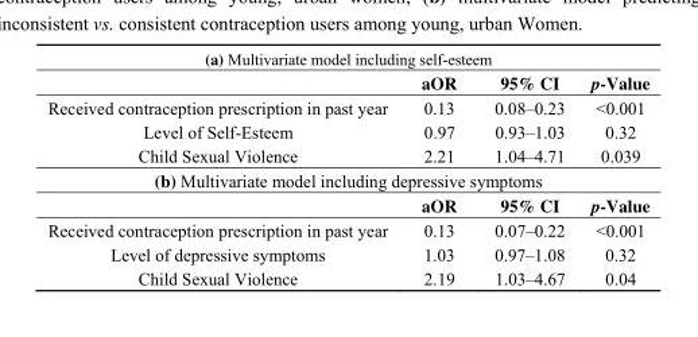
<table><tbody><tr><td colspan="4">(a) Multivariate model including self-esteem</td></tr><tr><td></td><td>aOR</td><td>95% CI</td><td>p-Value</td></tr><tr><td>Received contraception prescription in past year</td><td>0.13</td><td>0.08–0.23</td><td>&lt;0.001</td></tr><tr><td>Level of Self-Esteem</td><td>0.97</td><td>0.93–1.03</td><td>0.32</td></tr><tr><td>Child Sexual Violence</td><td>2.21</td><td>1.04–4.71</td><td>0.039</td></tr><tr><td colspan="4">(b) Multivariate model including depressive symptoms</td></tr><tr><td></td><td>aOR</td><td>95% CI</td><td>p-Value</td></tr><tr><td>Received contraception prescription in past year</td><td>0.13</td><td>0.07–0.22</td><td>&lt;0.001</td></tr><tr><td>Level of depressive symptoms</td><td>1.03</td><td>0.97–1.08</td><td>0.32</td></tr><tr><td>Child Sexual Violence</td><td>2.19</td><td>1.03–4.67</td><td>0.04</td></tr></tbody></table>